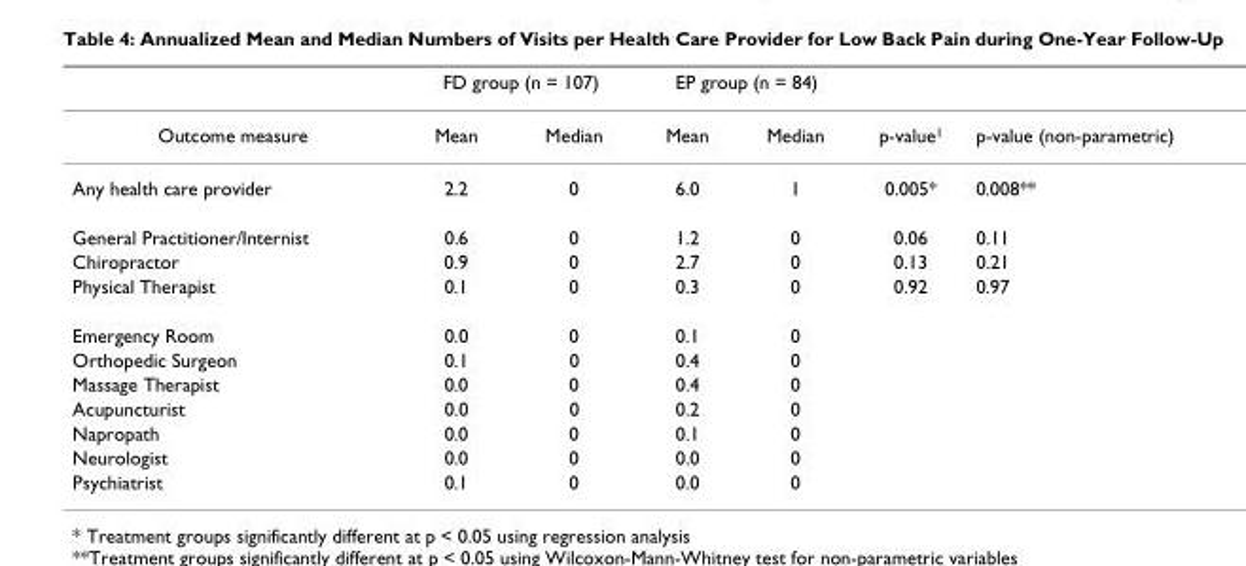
<table><thead><tr><td rowspan="2">Outcome measure</td><td colspan="2">FD group (n = 107)</td><td colspan="2">EP group (n = 84)</td><td rowspan="2">p-value<sup>1</sup></td><td rowspan="2">p-value (non-parametric)</td></tr><tr><td>Mean</td><td>Median</td><td>Mean</td><td>Median</td></tr></thead><tbody><tr><td>Any health care provider</td><td>2.2</td><td>0</td><td>6.0</td><td>1</td><td>0.005*</td><td>0.008**</td></tr><tr><td>General Practitioner/Internist</td><td>0.6</td><td>0</td><td>1.2</td><td>0</td><td>0.06</td><td>0.11</td></tr><tr><td>Chiropractor</td><td>0.9</td><td>0</td><td>2.7</td><td>0</td><td>0.13</td><td>0.21</td></tr><tr><td>Physical Therapist</td><td>0.1</td><td>0</td><td>0.3</td><td>0</td><td>0.92</td><td>0.97</td></tr><tr><td>Emergency Room</td><td>0.0</td><td>0</td><td>0.1</td><td>0</td><td></td><td></td></tr><tr><td>Orthopedic Surgeon</td><td>0.1</td><td>0</td><td>0.4</td><td>0</td><td></td><td></td></tr><tr><td>Massage Therapist</td><td>0.0</td><td>0</td><td>0.4</td><td>0</td><td></td><td></td></tr><tr><td>Acupuncturist</td><td>0.0</td><td>0</td><td>0.2</td><td>0</td><td></td><td></td></tr><tr><td>Napropath</td><td>0.0</td><td>0</td><td>0.1</td><td>0</td><td></td><td></td></tr><tr><td>Neurologist</td><td>0.0</td><td>0</td><td>0.0</td><td>0</td><td></td><td></td></tr><tr><td>Psychiatrist</td><td>0.1</td><td>0</td><td>0.0</td><td>0</td><td></td><td></td></tr></tbody></table>